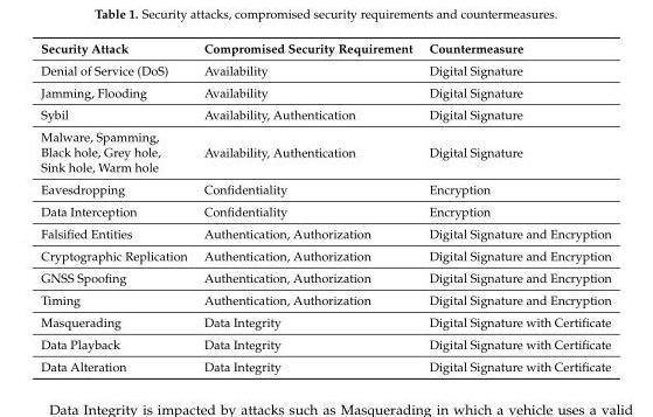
<table><thead><tr><td>Security Attack</td><td>Compromised Security Requirement</td><td>Countermeasure</td></tr></thead><tbody><tr><td>Denial of Service (DoS)</td><td>Availability</td><td>Digital Signature</td></tr><tr><td>Jamming, Flooding</td><td>Availability</td><td>Digital Signature</td></tr><tr><td>Sybil</td><td>Availability, Authentication</td><td>Digital Signature</td></tr><tr><td>Malware, Spamming, Black hole, Grey hole, Sink hole, Warm hole</td><td>Availability, Authentication</td><td>Digital Signature</td></tr><tr><td>Eavesdropping</td><td>Confidentiality</td><td>Encryption</td></tr><tr><td>Data Interception</td><td>Confidentiality</td><td>Encryption</td></tr><tr><td>Falsified Entities</td><td>Authentication, Authorization</td><td>Digital Signature and Encryption</td></tr><tr><td>Cryptographic Replication</td><td>Authentication, Authorization</td><td>Digital Signature and Encryption</td></tr><tr><td>GNSS Spoofing</td><td>Authentication, Authorization</td><td>Digital Signature and Encryption</td></tr><tr><td>Timing</td><td>Authentication, Authorization</td><td>Digital Signature and Encryption</td></tr><tr><td>Masquerading</td><td>Data Integrity</td><td>Digital Signature with Certificate</td></tr><tr><td>Data Playback</td><td>Data Integrity</td><td>Digital Signature with Certificate</td></tr><tr><td>Data Alteration</td><td>Data Integrity</td><td>Digital Signature with Certificate</td></tr></tbody></table>